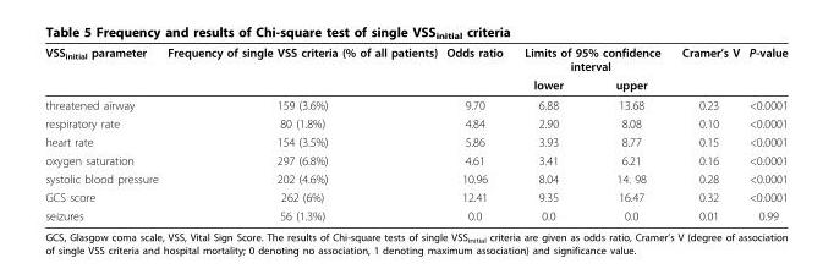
<table><thead><tr><td rowspan="2">VSS<sub>initial</sub> parameter</td><td rowspan="2">Frequency of single VSS criteria (% of all patients)</td><td rowspan="2">Odds ratio</td><td colspan="2">Limits of 95% confidence interval</td><td rowspan="2">Cramer’s V</td><td rowspan="2">P-value</td></tr><tr><td>lower</td><td>upper</td></tr></thead><tbody><tr><td>threatened airway</td><td>159 (3.6%)</td><td>9.70</td><td>6.88</td><td>13.68</td><td>0.23</td><td>&lt;0.0001</td></tr><tr><td>respiratory rate</td><td>80 (1.8%)</td><td>4.84</td><td>2.90</td><td>8.08</td><td>0.10</td><td>&lt;0.0001</td></tr><tr><td>heart rate</td><td>154 (3.5%)</td><td>5.86</td><td>3.93</td><td>8.77</td><td>0.15</td><td>&lt;0.0001</td></tr><tr><td>oxygen saturation</td><td>297 (6.8%)</td><td>4.61</td><td>3.41</td><td>6.21</td><td>0.16</td><td>&lt;0.0001</td></tr><tr><td>systolic blood pressure</td><td>202 (4.6%)</td><td>10.96</td><td>8.04</td><td>14. 98</td><td>0.28</td><td>&lt;0.0001</td></tr><tr><td>GCS score</td><td>262 (6%)</td><td>12.41</td><td>9.35</td><td>16.47</td><td>0.32</td><td>&lt;0.0001</td></tr><tr><td>seizures</td><td>56 (1.3%)</td><td>0.0</td><td>0.0</td><td>0.0</td><td>0.01</td><td>0.99</td></tr></tbody></table>